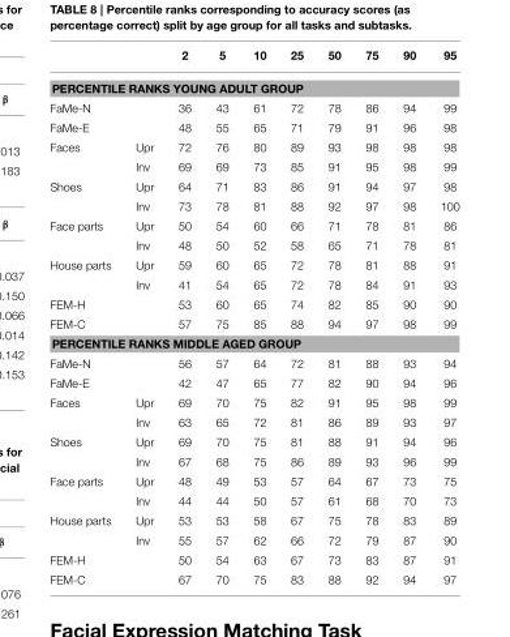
<table><thead><tr><td></td><td></td><td>2</td><td>5</td><td>10</td><td>25</td><td>50</td><td>75</td><td>90</td><td>95</td></tr></thead><tbody><tr><td colspan="10">PERCENTILE RANKS YOUNG ADULT GROUP</td></tr><tr><td>FaMe-N</td><td></td><td>36</td><td>43</td><td>61</td><td>72</td><td>78</td><td>86</td><td>94</td><td>99</td></tr><tr><td>FaMe-E</td><td></td><td>48</td><td>55</td><td>65</td><td>71</td><td>79</td><td>91</td><td>96</td><td>98</td></tr><tr><td rowspan="2">Faces</td><td>Upr</td><td>72</td><td>76</td><td>80</td><td>89</td><td>93</td><td>98</td><td>98</td><td>98</td></tr><tr><td>Inv</td><td>69</td><td>69</td><td>73</td><td>85</td><td>91</td><td>95</td><td>98</td><td>99</td></tr><tr><td rowspan="2">Shoes</td><td>Upr</td><td>64</td><td>71</td><td>83</td><td>86</td><td>91</td><td>94</td><td>97</td><td>98</td></tr><tr><td>Inv</td><td>73</td><td>78</td><td>81</td><td>88</td><td>92</td><td>97</td><td>98</td><td>100</td></tr><tr><td rowspan="2">Face parts</td><td>Upr</td><td>50</td><td>54</td><td>60</td><td>66</td><td>71</td><td>78</td><td>81</td><td>86</td></tr><tr><td>Inv</td><td>48</td><td>50</td><td>52</td><td>58</td><td>65</td><td>71</td><td>78</td><td>81</td></tr><tr><td rowspan="2">House parts</td><td>Upr</td><td>59</td><td>60</td><td>65</td><td>72</td><td>78</td><td>81</td><td>88</td><td>91</td></tr><tr><td>Inv</td><td>41</td><td>54</td><td>65</td><td>72</td><td>78</td><td>84</td><td>91</td><td>93</td></tr><tr><td>FEM-H</td><td></td><td>53</td><td>60</td><td>65</td><td>74</td><td>82</td><td>85</td><td>90</td><td>90</td></tr><tr><td>FEM-C</td><td></td><td>57</td><td>75</td><td>85</td><td>88</td><td>94</td><td>97</td><td>98</td><td>99</td></tr><tr><td colspan="10">PERCENTILE RANKS MIDDLE AGED GROUP</td></tr><tr><td>FaMe-N</td><td></td><td>56</td><td>57</td><td>64</td><td>72</td><td>81</td><td>88</td><td>93</td><td>94</td></tr><tr><td>FaMe-E</td><td></td><td>42</td><td>47</td><td>65</td><td>77</td><td>82</td><td>90</td><td>94</td><td>96</td></tr><tr><td rowspan="2">Faces</td><td>Upr</td><td>69</td><td>70</td><td>75</td><td>82</td><td>91</td><td>95</td><td>98</td><td>99</td></tr><tr><td>Inv</td><td>63</td><td>65</td><td>72</td><td>81</td><td>86</td><td>89</td><td>93</td><td>97</td></tr><tr><td rowspan="2">Shoes</td><td>Upr</td><td>69</td><td>70</td><td>75</td><td>81</td><td>88</td><td>91</td><td>94</td><td>96</td></tr><tr><td>Inv</td><td>67</td><td>68</td><td>75</td><td>86</td><td>89</td><td>93</td><td>96</td><td>99</td></tr><tr><td rowspan="2">Face parts</td><td>Upr</td><td>48</td><td>49</td><td>53</td><td>57</td><td>64</td><td>67</td><td>73</td><td>75</td></tr><tr><td>Inv</td><td>44</td><td>44</td><td>50</td><td>57</td><td>61</td><td>68</td><td>70</td><td>73</td></tr><tr><td rowspan="2">House parts</td><td>Upr</td><td>53</td><td>53</td><td>58</td><td>67</td><td>75</td><td>78</td><td>83</td><td>89</td></tr><tr><td>Inv</td><td>55</td><td>57</td><td>62</td><td>66</td><td>72</td><td>79</td><td>87</td><td>90</td></tr><tr><td>FEM-H</td><td></td><td>50</td><td>54</td><td>63</td><td>67</td><td>73</td><td>83</td><td>87</td><td>91</td></tr><tr><td>FEM-C</td><td></td><td>67</td><td>70</td><td>75</td><td>83</td><td>88</td><td>92</td><td>94</td><td>97</td></tr></tbody></table>